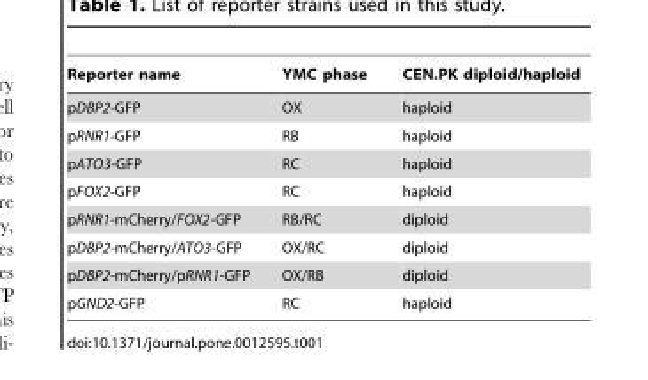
<table><thead><tr><td>Reporter name</td><td>YMC phase</td><td>CEN.PK diploid/haploid</td></tr></thead><tbody><tr><td>pDBP2-GFP</td><td>OX</td><td>haploid</td></tr><tr><td>pRNR1-GFP</td><td>RB</td><td>haploid</td></tr><tr><td>pATO3-GFP</td><td>RC</td><td>haploid</td></tr><tr><td>pFOX2-GFP</td><td>RC</td><td>haploid</td></tr><tr><td>pRNR1-mCherry/FOX2-GFP</td><td>RB/RC</td><td>diploid</td></tr><tr><td>pDBP2-mCherry/ATO3-GFP</td><td>OX/RC</td><td>diploid</td></tr><tr><td>pDBP2-mCherry/pRNR1-GFP</td><td>OX/RB</td><td>diploid</td></tr><tr><td>pGND2-GFP</td><td>RC</td><td>haploid</td></tr></tbody></table>